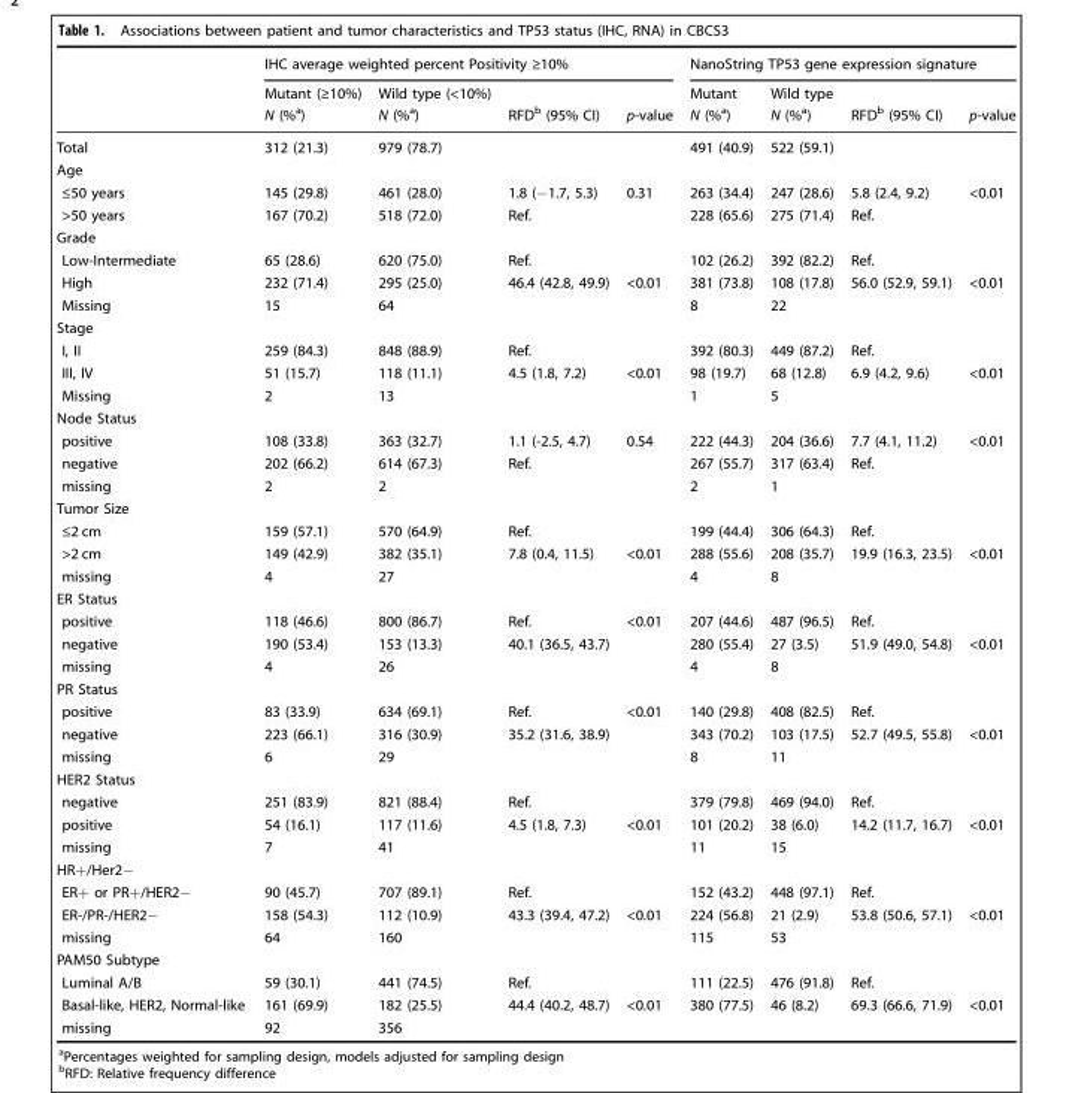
<table><thead><tr><td rowspan="3"></td><td colspan="4">IHC average weighted percent Positivity ≥10%</td><td colspan="4">NanoString TP53 gene expression signature</td></tr><tr><td rowspan="2">Mutant (≥10%) N (%<sup>a</sup>)</td><td rowspan="2">Wild type (&lt;10%) N (%<sup>a</sup>)</td><td rowspan="2">RFD<sup>b</sup> (95% CI)</td><td rowspan="2">p-value</td><td rowspan="2">Mutant N (%<sup>a</sup>)</td><td rowspan="2">Wild type N (%<sup>a</sup>)</td><td rowspan="2">RFD<sup>b</sup> (95% CI)</td><td rowspan="2">p-value</td></tr><tr></tr></thead><tbody><tr><td>Total</td><td>312 (21.3)</td><td>979 (78.7)</td><td></td><td></td><td>491 (40.9)</td><td>522 (59.1)</td><td></td><td></td></tr><tr><td colspan="9">Age</td></tr><tr><td>≤50 years</td><td>145 (29.8)</td><td>461 (28.0)</td><td>1.8 (−1.7, 5.3)</td><td>0.31</td><td>263 (34.4)</td><td>247 (28.6)</td><td>5.8 (2.4, 9.2)</td><td>&lt;0.01</td></tr><tr><td>&gt;50 years</td><td>167 (70.2)</td><td>518 (72.0)</td><td>Ref.</td><td></td><td>228 (65.6)</td><td>275 (71.4)</td><td>Ref.</td><td></td></tr><tr><td colspan="9">Grade</td></tr><tr><td>Low-Intermediate</td><td>65 (28.6)</td><td>620 (75.0)</td><td>Ref.</td><td></td><td>102 (26.2)</td><td>392 (82.2)</td><td>Ref.</td><td></td></tr><tr><td>High</td><td>232 (71.4)</td><td>295 (25.0)</td><td>46.4 (42.8, 49.9)</td><td>&lt;0.01</td><td>381 (73.8)</td><td>108 (17.8)</td><td>56.0 (52.9, 59.1)</td><td>&lt;0.01</td></tr><tr><td>Missing</td><td>15</td><td>64</td><td></td><td></td><td>8</td><td>22</td><td></td><td></td></tr><tr><td colspan="9">Stage</td></tr><tr><td>I, II</td><td>259 (84.3)</td><td>848 (88.9)</td><td>Ref.</td><td></td><td>392 (80.3)</td><td>449 (87.2)</td><td>Ref.</td><td></td></tr><tr><td>III, IV</td><td>51 (15.7)</td><td>118 (11.1)</td><td>4.5 (1.8, 7.2)</td><td>&lt;0.01</td><td>98 (19.7)</td><td>68 (12.8)</td><td>6.9 (4.2, 9.6)</td><td>&lt;0.01</td></tr><tr><td>Missing</td><td>2</td><td>13</td><td></td><td></td><td>1</td><td>5</td><td></td><td></td></tr><tr><td colspan="9">Node Status</td></tr><tr><td>positive</td><td>108 (33.8)</td><td>363 (32.7)</td><td>1.1 (-2.5, 4.7)</td><td>0.54</td><td>222 (44.3)</td><td>204 (36.6)</td><td>7.7 (4.1, 11.2)</td><td>&lt;0.01</td></tr><tr><td>negative</td><td>202 (66.2)</td><td>614 (67.3)</td><td>Ref.</td><td></td><td>267 (55.7)</td><td>317 (63.4)</td><td>Ref.</td><td></td></tr><tr><td>missing</td><td>2</td><td>2</td><td></td><td></td><td>2</td><td>1</td><td></td><td></td></tr><tr><td colspan="9">Tumor Size</td></tr><tr><td>≤2 cm</td><td>159 (57.1)</td><td>570 (64.9)</td><td>Ref.</td><td></td><td>199 (44.4)</td><td>306 (64.3)</td><td>Ref.</td><td></td></tr><tr><td>&gt;2 cm</td><td>149 (42.9)</td><td>382 (35.1)</td><td>7.8 (0.4, 11.5)</td><td>&lt;0.01</td><td>288 (55.6)</td><td>208 (35.7)</td><td>19.9 (16.3, 23.5)</td><td>&lt;0.01</td></tr><tr><td>missing</td><td>4</td><td>27</td><td></td><td></td><td>4</td><td>8</td><td></td><td></td></tr><tr><td colspan="9">ER Status</td></tr><tr><td>positive</td><td>118 (46.6)</td><td>800 (86.7)</td><td>Ref.</td><td>&lt;0.01</td><td>207 (44.6)</td><td>487 (96.5)</td><td>Ref.</td><td></td></tr><tr><td>negative</td><td>190 (53.4)</td><td>153 (13.3)</td><td>40.1 (36.5, 43.7)</td><td></td><td>280 (55.4)</td><td>27 (3.5)</td><td>51.9 (49.0, 54.8)</td><td>&lt;0.01</td></tr><tr><td>missing</td><td>4</td><td>26</td><td></td><td></td><td>4</td><td>8</td><td></td><td></td></tr><tr><td colspan="9">PR Status</td></tr><tr><td>positive</td><td>83 (33.9)</td><td>634 (69.1)</td><td>Ref.</td><td>&lt;0.01</td><td>140 (29.8)</td><td>408 (82.5)</td><td>Ref.</td><td></td></tr><tr><td>negative</td><td>223 (66.1)</td><td>316 (30.9)</td><td>35.2 (31.6, 38.9)</td><td></td><td>343 (70.2)</td><td>103 (17.5)</td><td>52.7 (49.5, 55.8)</td><td>&lt;0.01</td></tr><tr><td>missing</td><td>6</td><td>29</td><td></td><td></td><td>8</td><td>11</td><td></td><td></td></tr><tr><td colspan="9">HER2 Status</td></tr><tr><td>negative</td><td>251 (83.9)</td><td>821 (88.4)</td><td>Ref.</td><td></td><td>379 (79.8)</td><td>469 (94.0)</td><td>Ref.</td><td></td></tr><tr><td>positive</td><td>54 (16.1)</td><td>117 (11.6)</td><td>4.5 (1.8, 7.3)</td><td>&lt;0.01</td><td>101 (20.2)</td><td>38 (6.0)</td><td>14.2 (11.7, 16.7)</td><td>&lt;0.01</td></tr><tr><td>missing</td><td>7</td><td>41</td><td></td><td></td><td>11</td><td>15</td><td></td><td></td></tr><tr><td colspan="9">HR+/Her2−</td></tr><tr><td>ER+ or PR+/HER2−</td><td>90 (45.7)</td><td>707 (89.1)</td><td>Ref.</td><td></td><td>152 (43.2)</td><td>448 (97.1)</td><td>Ref.</td><td></td></tr><tr><td>ER-/PR-/HER2−</td><td>158 (54.3)</td><td>112 (10.9)</td><td>43.3 (39.4, 47.2)</td><td>&lt;0.01</td><td>224 (56.8)</td><td>21 (2.9)</td><td>53.8 (50.6, 57.1)</td><td>&lt;0.01</td></tr><tr><td>missing</td><td>64</td><td>160</td><td></td><td></td><td>115</td><td>53</td><td></td><td></td></tr><tr><td colspan="9">PAM50 Subtype</td></tr><tr><td>Luminal A/B</td><td>59 (30.1)</td><td>441 (74.5)</td><td>Ref.</td><td></td><td>111 (22.5)</td><td>476 (91.8)</td><td>Ref.</td><td></td></tr><tr><td>Basal-like, HER2, Normal-like</td><td>161 (69.9)</td><td>182 (25.5)</td><td>44.4 (40.2, 48.7)</td><td>&lt;0.01</td><td>380 (77.5)</td><td>46 (8.2)</td><td>69.3 (66.6, 71.9)</td><td>&lt;0.01</td></tr><tr><td>missing</td><td>92</td><td>356</td><td></td><td></td><td></td><td></td><td></td><td></td></tr></tbody></table>